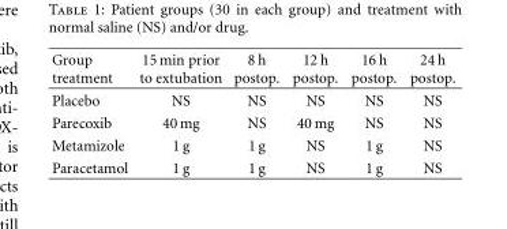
<table><thead><tr><td>Group treatment</td><td>15 min prior to extubation</td><td>8 h postop.</td><td>12 h postop.</td><td>16 h postop.</td><td>24 h postop.</td></tr></thead><tbody><tr><td>Placebo</td><td>NS</td><td>NS</td><td>NS</td><td>NS</td><td>NS</td></tr><tr><td>Parecoxib</td><td>40 mg</td><td>NS</td><td>40 mg</td><td>NS</td><td>NS</td></tr><tr><td>Metamizole</td><td>1 g</td><td>1 g</td><td>NS</td><td>1 g</td><td>NS</td></tr><tr><td>Paracetamol</td><td>1 g</td><td>1 g</td><td>NS</td><td>1 g</td><td>NS</td></tr></tbody></table>